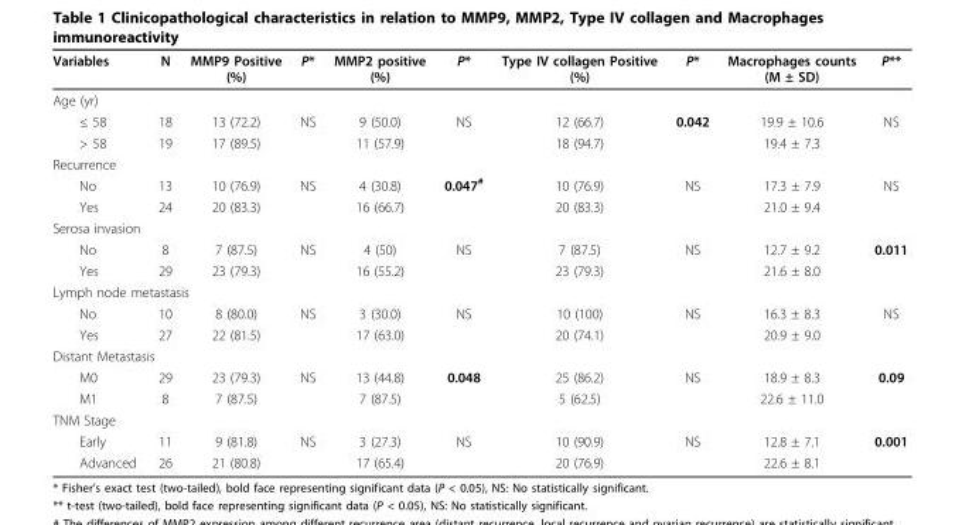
<table><thead><tr><td>Variables</td><td>N</td><td>MMP9 Positive (%)</td><td>P*</td><td>MMP2 positive (%)</td><td>P*</td><td>Type IV collagen Positive (%)</td><td>P*</td><td>Macrophages counts (M ± SD)</td><td>P**</td></tr></thead><tbody><tr><td colspan="10">Age (yr)</td></tr><tr><td>≤ 58</td><td>18</td><td>13 (72.2)</td><td>NS</td><td>9 (50.0)</td><td>NS</td><td>12 (66.7)</td><td>0.042</td><td>19.9 ± 10.6</td><td>NS</td></tr><tr><td>&gt; 58</td><td>19</td><td>17 (89.5)</td><td></td><td>11 (57.9)</td><td></td><td>18 (94.7)</td><td></td><td>19.4 ± 7.3</td><td></td></tr><tr><td colspan="10">Recurrence</td></tr><tr><td>No</td><td>13</td><td>10 (76.9)</td><td>NS</td><td>4 (30.8)</td><td>0.047<sup>#</sup></td><td>10 (76.9)</td><td>NS</td><td>17.3 ± 7.9</td><td>NS</td></tr><tr><td>Yes</td><td>24</td><td>20 (83.3)</td><td></td><td>16 (66.7)</td><td></td><td>20 (83.3)</td><td></td><td>21.0 ± 9.4</td><td></td></tr><tr><td colspan="10">Serosa invasion</td></tr><tr><td>No</td><td>8</td><td>7 (87.5)</td><td>NS</td><td>4 (50)</td><td>NS</td><td>7 (87.5)</td><td>NS</td><td>12.7 ± 9.2</td><td>0.011</td></tr><tr><td>Yes</td><td>29</td><td>23 (79.3)</td><td></td><td>16 (55.2)</td><td></td><td>23 (79.3)</td><td></td><td>21.6 ± 8.0</td><td></td></tr><tr><td colspan="10">Lymph node metastasis</td></tr><tr><td>No</td><td>10</td><td>8 (80.0)</td><td>NS</td><td>3 (30.0)</td><td>NS</td><td>10 (100)</td><td>NS</td><td>16.3 ± 8.3</td><td>NS</td></tr><tr><td>Yes</td><td>27</td><td>22 (81.5)</td><td></td><td>17 (63.0)</td><td></td><td>20 (74.1)</td><td></td><td>20.9 ± 9.0</td><td></td></tr><tr><td colspan="10">Distant Metastasis</td></tr><tr><td>M0</td><td>29</td><td>23 (79.3)</td><td>NS</td><td>13 (44.8)</td><td>0.048</td><td>25 (86.2)</td><td>NS</td><td>18.9 ± 8.3</td><td>0.09</td></tr><tr><td>M1</td><td>8</td><td>7 (87.5)</td><td></td><td>7 (87.5)</td><td></td><td>5 (62.5)</td><td></td><td>22.6 ± 11.0</td><td></td></tr><tr><td colspan="10">TNM Stage</td></tr><tr><td>Early</td><td>11</td><td>9 (81.8)</td><td>NS</td><td>3 (27.3)</td><td>NS</td><td>10 (90.9)</td><td>NS</td><td>12.8 ± 7.1</td><td>0.001</td></tr><tr><td>Advanced</td><td>26</td><td>21 (80.8)</td><td></td><td>17 (65.4)</td><td></td><td>20 (76.9)</td><td></td><td>22.6 ± 8.1</td><td></td></tr></tbody></table>